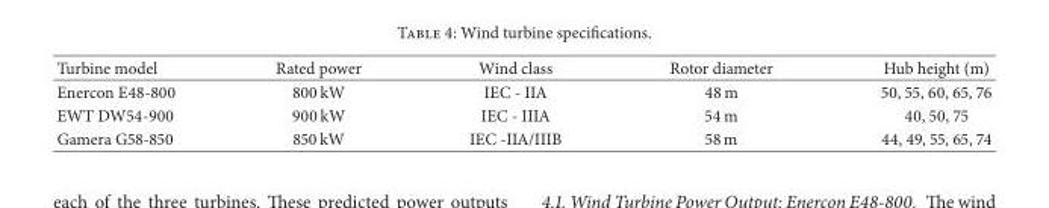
<table><thead><tr><td>Turbine model</td><td>Rated power</td><td>Wind class</td><td>Rotor diameter</td><td>Hub height (m)</td></tr></thead><tbody><tr><td>Enercon E48-800</td><td>800 kW</td><td>IEC - IIA</td><td>48 m</td><td>50, 55, 60, 65, 76</td></tr><tr><td>EWT DW54-900</td><td>900 kW</td><td>IEC - IIIA</td><td>54 m</td><td>40, 50, 75</td></tr><tr><td>Gamera G58-850</td><td>850 kW</td><td>IEC -IIA/IIIB</td><td>58 m</td><td>44, 49, 55, 65, 74</td></tr></tbody></table>